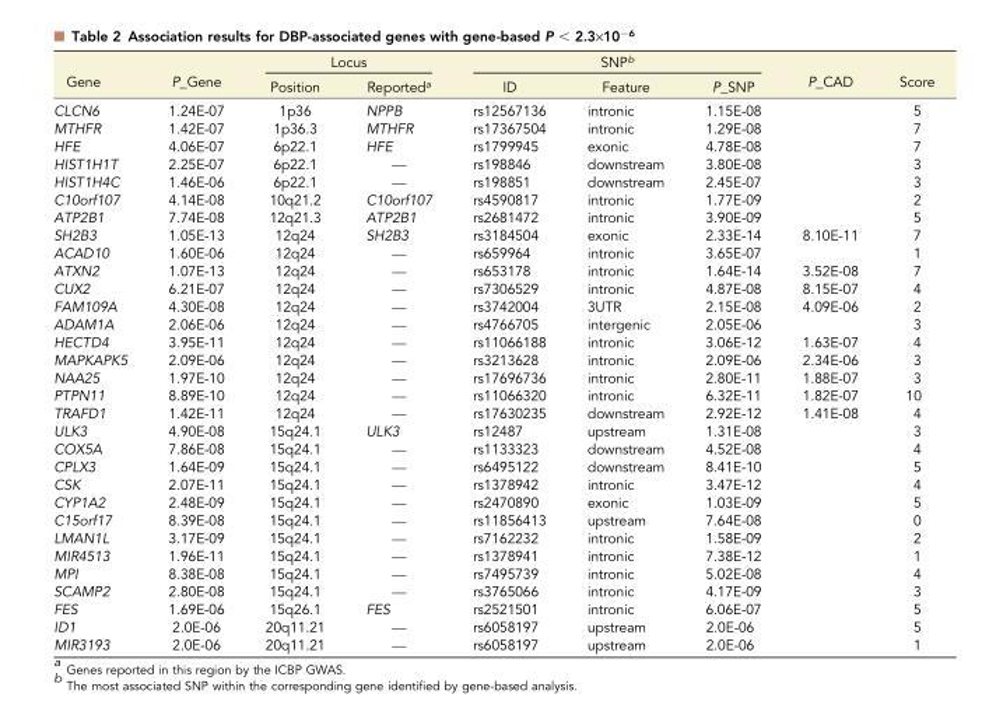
<table><thead><tr><td rowspan="2">Gene</td><td rowspan="2">P_Gene</td><td colspan="2">Locus</td><td colspan="3">SNP<sup>b</sup></td><td rowspan="2">P_CAD</td><td rowspan="2">Score</td></tr><tr><td>Position</td><td>Reported<sup>a</sup></td><td>ID</td><td>Feature</td><td>P_SNP</td></tr></thead><tbody><tr><td>CLCN6</td><td>1.24E-07</td><td>1p36</td><td>NPPB</td><td>rs12567136</td><td>intronic</td><td>1.15E-08</td><td></td><td>5</td></tr><tr><td>MTHFR</td><td>1.42E-07</td><td>1p36.3</td><td>MTHFR</td><td>rs17367504</td><td>intronic</td><td>1.29E-08</td><td></td><td>7</td></tr><tr><td>HFE</td><td>4.06E-07</td><td>6p22.1</td><td>HFE</td><td>rs1799945</td><td>exonic</td><td>4.78E-08</td><td></td><td>7</td></tr><tr><td>HIST1H1T</td><td>2.25E-07</td><td>6p22.1</td><td>—</td><td>rs198846</td><td>downstream</td><td>3.80E-08</td><td></td><td>3</td></tr><tr><td>HIST1H4C</td><td>1.46E-06</td><td>6p22.1</td><td>—</td><td>rs198851</td><td>downstream</td><td>2.45E-07</td><td></td><td>3</td></tr><tr><td>C10orf107</td><td>4.14E-08</td><td>10q21.2</td><td>C10orf107</td><td>rs4590817</td><td>intronic</td><td>1.77E-09</td><td></td><td>2</td></tr><tr><td>ATP2B1</td><td>7.74E-08</td><td>12q21.3</td><td>ATP2B1</td><td>rs2681472</td><td>intronic</td><td>3.90E-09</td><td></td><td>5</td></tr><tr><td>SH2B3</td><td>1.05E-13</td><td>12q24</td><td>SH2B3</td><td>rs3184504</td><td>exonic</td><td>2.33E-14</td><td>8.10E-11</td><td>7</td></tr><tr><td>ACAD10</td><td>1.60E-06</td><td>12q24</td><td>—</td><td>rs659964</td><td>intronic</td><td>3.65E-07</td><td></td><td>1</td></tr><tr><td>ATXN2</td><td>1.07E-13</td><td>12q24</td><td>—</td><td>rs653178</td><td>intronic</td><td>1.64E-14</td><td>3.52E-08</td><td>7</td></tr><tr><td>CUX2</td><td>6.21E-07</td><td>12q24</td><td>—</td><td>rs7306529</td><td>intronic</td><td>4.87E-08</td><td>8.15E-07</td><td>4</td></tr><tr><td>FAM109A</td><td>4.30E-08</td><td>12q24</td><td>—</td><td>rs3742004</td><td>3UTR</td><td>2.15E-08</td><td>4.09E-06</td><td>2</td></tr><tr><td>ADAM1A</td><td>2.06E-06</td><td>12q24</td><td>—</td><td>rs4766705</td><td>intergenic</td><td>2.05E-06</td><td></td><td>3</td></tr><tr><td>HECTD4</td><td>3.95E-11</td><td>12q24</td><td>—</td><td>rs11066188</td><td>intronic</td><td>3.06E-12</td><td>1.63E-07</td><td>4</td></tr><tr><td>MAPKAPK5</td><td>2.09E-06</td><td>12q24</td><td>—</td><td>rs3213628</td><td>intronic</td><td>2.09E-06</td><td>2.34E-06</td><td>3</td></tr><tr><td>NAA25</td><td>1.97E-10</td><td>12q24</td><td>—</td><td>rs17696736</td><td>intronic</td><td>2.80E-11</td><td>1.88E-07</td><td>3</td></tr><tr><td>PTPN11</td><td>8.89E-10</td><td>12q24</td><td>—</td><td>rs11066320</td><td>intronic</td><td>6.32E-11</td><td>1.82E-07</td><td>10</td></tr><tr><td>TRAFD1</td><td>1.42E-11</td><td>12q24</td><td>—</td><td>rs17630235</td><td>downstream</td><td>2.92E-12</td><td>1.41E-08</td><td>4</td></tr><tr><td>ULK3</td><td>4.90E-08</td><td>15q24.1</td><td>ULK3</td><td>rs12487</td><td>upstream</td><td>1.31E-08</td><td></td><td>3</td></tr><tr><td>COX5A</td><td>7.86E-08</td><td>15q24.1</td><td>—</td><td>rs1133323</td><td>downstream</td><td>4.52E-08</td><td></td><td>4</td></tr><tr><td>CPLX3</td><td>1.64E-09</td><td>15q24.1</td><td>—</td><td>rs6495122</td><td>downstream</td><td>8.41E-10</td><td></td><td>5</td></tr><tr><td>CSK</td><td>2.07E-11</td><td>15q24.1</td><td>—</td><td>rs1378942</td><td>intronic</td><td>3.47E-12</td><td></td><td>4</td></tr><tr><td>CYP1A2</td><td>2.48E-09</td><td>15q24.1</td><td>—</td><td>rs2470890</td><td>exonic</td><td>1.03E-09</td><td></td><td>5</td></tr><tr><td>C15orf17</td><td>8.39E-08</td><td>15q24.1</td><td>—</td><td>rs11856413</td><td>upstream</td><td>7.64E-08</td><td></td><td>0</td></tr><tr><td>LMAN1L</td><td>3.17E-09</td><td>15q24.1</td><td>—</td><td>rs7162232</td><td>intronic</td><td>1.58E-09</td><td></td><td>2</td></tr><tr><td>MIR4513</td><td>1.96E-11</td><td>15q24.1</td><td>—</td><td>rs1378941</td><td>intronic</td><td>7.38E-12</td><td></td><td>1</td></tr><tr><td>MPI</td><td>8.38E-08</td><td>15q24.1</td><td>—</td><td>rs7495739</td><td>intronic</td><td>5.02E-08</td><td></td><td>4</td></tr><tr><td>SCAMP2</td><td>2.80E-08</td><td>15q24.1</td><td>—</td><td>rs3765066</td><td>intronic</td><td>4.17E-09</td><td></td><td>3</td></tr><tr><td>FES</td><td>1.69E-06</td><td>15q26.1</td><td>FES</td><td>rs2521501</td><td>intronic</td><td>6.06E-07</td><td></td><td>5</td></tr><tr><td>ID1</td><td>2.0E-06</td><td>20q11.21</td><td>—</td><td>rs6058197</td><td>upstream</td><td>2.0E-06</td><td></td><td>5</td></tr><tr><td>MIR3193</td><td>2.0E-06</td><td>20q11.21</td><td>—</td><td>rs6058197</td><td>upstream</td><td>2.0E-06</td><td></td><td>1</td></tr></tbody></table>